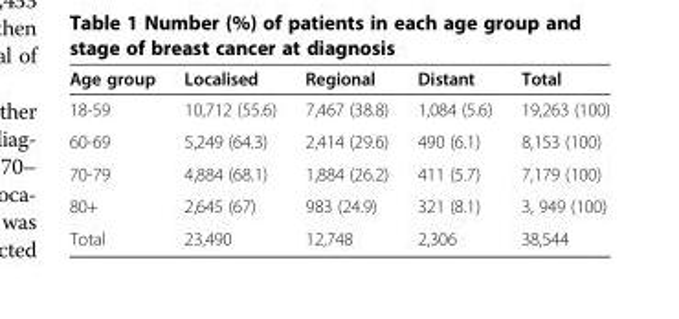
<table><thead><tr><td>Age group</td><td>Localised</td><td>Regional</td><td>Distant</td><td>Total</td></tr></thead><tbody><tr><td>18-59</td><td>10,712 (55.6)</td><td>7,467 (38.8)</td><td>1,084 (5.6)</td><td>19,263 (100)</td></tr><tr><td>60-69</td><td>5,249 (64.3)</td><td>2,414 (29.6)</td><td>490 (6.1)</td><td>8,153 (100)</td></tr><tr><td>70-79</td><td>4,884 (68.1)</td><td>1,884 (26.2)</td><td>411 (5.7)</td><td>7,179 (100)</td></tr><tr><td>80+</td><td>2,645 (67)</td><td>983 (24.9)</td><td>321 (8.1)</td><td>3, 949 (100)</td></tr><tr><td>Total</td><td>23,490</td><td>12,748</td><td>2,306</td><td>38,544</td></tr></tbody></table>